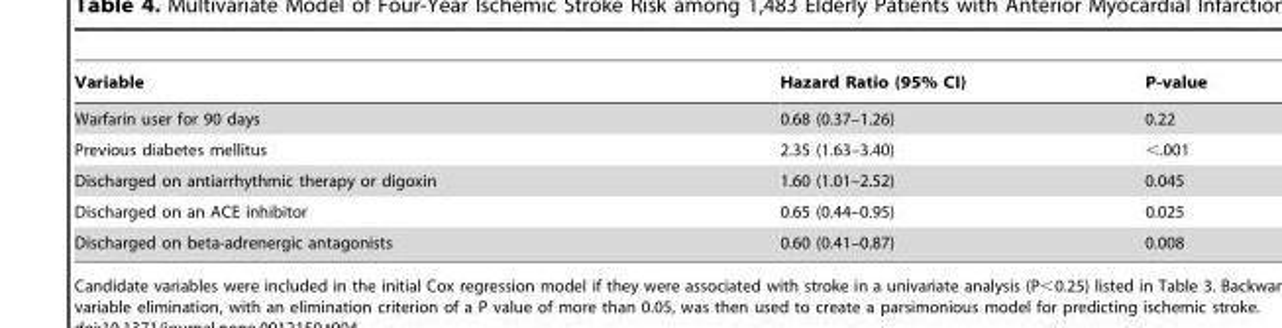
<table><thead><tr><td>Variable</td><td>Hazard Ratio (95% CI)</td><td>P-value</td></tr></thead><tbody><tr><td>Warfarin user for 90 days</td><td>0.68 (0.37–1.26)</td><td>0.22</td></tr><tr><td>Previous diabetes mellitus</td><td>2.35 (1.63–3.40)</td><td>&lt;.001</td></tr><tr><td>Discharged on antiarrhythmic therapy or digoxin</td><td>1.60 (1.01–2.52)</td><td>0.045</td></tr><tr><td>Discharged on an ACE inhibitor</td><td>0.65 (0.44–0.95)</td><td>0.025</td></tr><tr><td>Discharged on beta-adrenergic antagonists</td><td>0.60 (0.41–0.87)</td><td>0.008</td></tr></tbody></table>